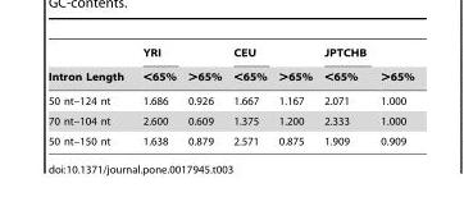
<table><thead><tr><td rowspan="2">Intron Length</td><td rowspan="2">YRI &lt;65%</td><td rowspan="2">&gt;65%</td><td rowspan="2">CEU &lt;65%</td><td rowspan="2">&gt;65%</td><td rowspan="2">JPTCHB &lt;65%</td><td rowspan="2">&gt;65%</td></tr><tr></tr></thead><tbody><tr><td>50 nt–124 nt</td><td>1.686</td><td>0.926</td><td>1.667</td><td>1.167</td><td>2.071</td><td>1.000</td></tr><tr><td>70 nt–104 nt</td><td>2.600</td><td>0.609</td><td>1.375</td><td>1.200</td><td>2.333</td><td>1.000</td></tr><tr><td>50 nt–150 nt</td><td>1.638</td><td>0.879</td><td>2.571</td><td>0.875</td><td>1.909</td><td>0.909</td></tr></tbody></table>